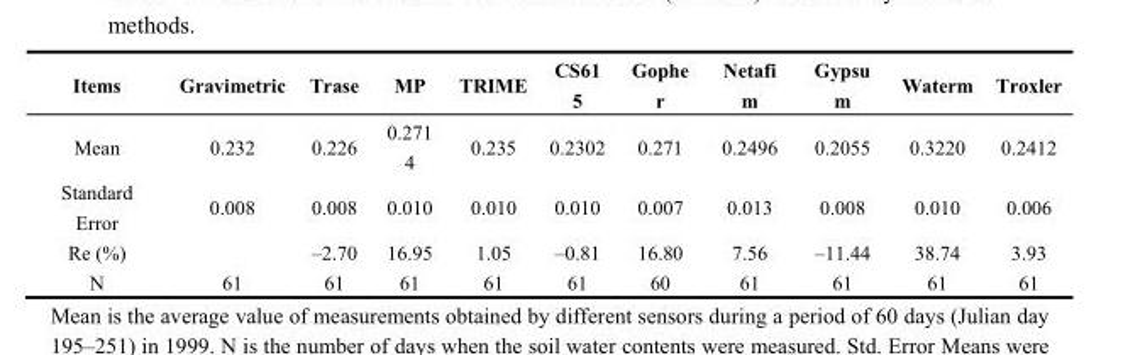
<table><thead><tr><td>Items</td><td>Gravimetric</td><td>Trase</td><td>MP</td><td>TRIME</td><td>CS61 5</td><td>Gophe r</td><td>Netafi m</td><td>Gypsu m</td><td>Waterm</td><td>Troxler</td></tr></thead><tbody><tr><td>Mean</td><td>0.232</td><td>0.226</td><td>0.271 4</td><td>0.235</td><td>0.2302</td><td>0.271</td><td>0.2496</td><td>0.2055</td><td>0.3220</td><td>0.2412</td></tr><tr><td>Standard Error</td><td>0.008</td><td>0.008</td><td>0.010</td><td>0.010</td><td>0.010</td><td>0.007</td><td>0.013</td><td>0.008</td><td>0.010</td><td>0.006</td></tr><tr><td>Re (%)</td><td></td><td>–2.70</td><td>16.95</td><td>1.05</td><td>–0.81</td><td>16.80</td><td>7.56</td><td>–11.44</td><td>38.74</td><td>3.93</td></tr><tr><td>N</td><td>61</td><td>61</td><td>61</td><td>61</td><td>61</td><td>60</td><td>61</td><td>61</td><td>61</td><td>61</td></tr></tbody></table>